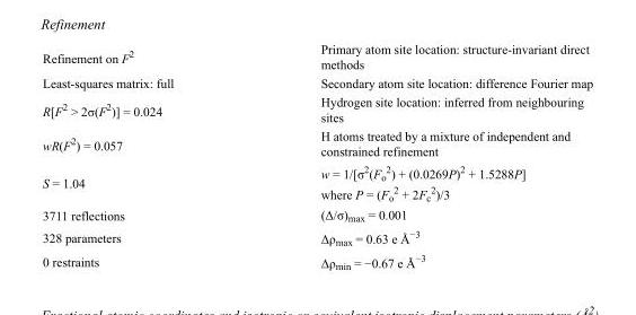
<table><tbody><tr><td>Refinement on F<sup>2</sup></td><td>Primary atom site location: structure-invariant direct methods</td></tr><tr><td>Least-squares matrix: full</td><td>Secondary atom site location: difference Fourier map</td></tr><tr><td>R[F<sup>2</sup> &gt; 2σ(F<sup>2</sup>)] = 0.024</td><td>Hydrogen site location: inferred from neighbouring sites</td></tr><tr><td>wR(F<sup>2</sup>) = 0.057</td><td>H atoms treated by a mixture of independent and constrained refinement</td></tr><tr><td>S = 1.04</td><td>w = 1/[σ<sup>2</sup>(F<sub>o</sub> <sup>2</sup>) + (0.0269P)<sup>2</sup> + 1.5288P] where P = (F<sub>o</sub> <sup>2</sup> + 2F<sub>c</sub> <sup>2</sup>)/3</td></tr><tr><td>3711 reflections</td><td>(Δ/σ)<sub>max</sub> = 0.001</td></tr><tr><td>328 parameters</td><td>Δρ<sub>max</sub> = 0.63 e Å<sup>−3</sup></td></tr><tr><td>0 restraints</td><td>Δρ<sub>min</sub> = −0.67 e Å<sup>−3</sup></td></tr></tbody></table>